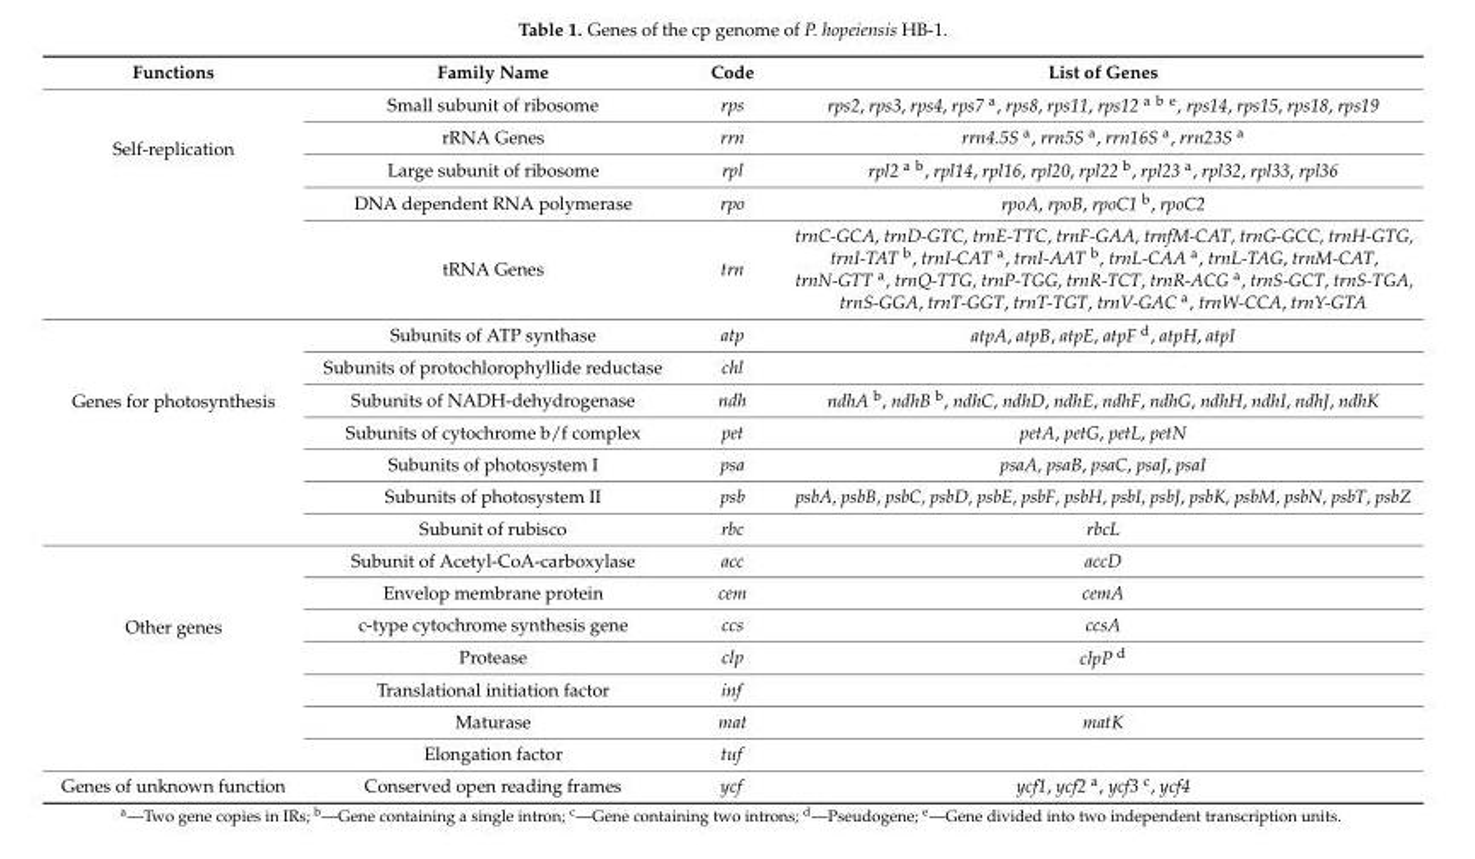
<table><thead><tr><td>Functions</td><td>Family Name</td><td>Code</td><td>List of Genes</td></tr></thead><tbody><tr><td rowspan="5">Self-replication</td><td>Small subunit of ribosome</td><td>rps</td><td>rps2, rps3, rps4, rps7 <sup>a</sup>, rps8, rps11, rps12 <sup>a b e</sup>, rps14, rps15, rps18, rps19</td></tr><tr><td>rRNA Genes</td><td>rrn</td><td>rrn4.5S <sup>a</sup>, rrn5S <sup>a</sup>, rrn16S <sup>a</sup>, rrn23S <sup>a</sup></td></tr><tr><td>Large subunit of ribosome</td><td>rpl</td><td>rpl2 <sup>a b</sup>, rpl14, rpl16, rpl20, rpl22 <sup>b</sup>, rpl23 <sup>a</sup>, rpl32, rpl33, rpl36</td></tr><tr><td>DNA dependent RNA polymerase</td><td>rpo</td><td>rpoA, rpoB, rpoC1 <sup>b</sup>, rpoC2</td></tr><tr><td>tRNA Genes</td><td>trn</td><td>trnC-GCA, trnD-GTC, trnE-TTC, trnF-GAA, trnfM-CAT, trnG-GCC, trnH-GTG, trnI-TAT b, trnI-CAT a, trnI-AAT b, trnL-CAA a, trnL-TAG, trnM-CAT, trnN-GTT a, trnQ-TTG, trnP-TGG, trnR-TCT, trnR-ACG a, trnS-GCT, trnS-TGA, trnS-GGA, trnT-GGT, trnT-TGT, trnV-GAC a, trnW-CCA, trnY-GTA</td></tr><tr><td rowspan="7">Genes for photosynthesis</td><td>Subunits of ATP synthase</td><td>atp</td><td>atpA, atpB, atpE, atpF <sup>d</sup>, atpH, atpI</td></tr><tr><td>Subunits of protochlorophyllide reductase</td><td>chl</td><td></td></tr><tr><td>Subunits of NADH-dehydrogenase</td><td>ndh</td><td>ndhA <sup>b</sup>, ndhB <sup>b</sup>, ndhC, ndhD, ndhE, ndhF, ndhG, ndhH, ndhI, ndhJ, ndhK</td></tr><tr><td>Subunits of cytochrome b/f complex</td><td>pet</td><td>petA, petG, petL, petN</td></tr><tr><td>Subunits of photosystem I</td><td>psa</td><td>psaA, psaB, psaC, psaJ, psaI</td></tr><tr><td>Subunits of photosystem II</td><td>psb</td><td>psbA, psbB, psbC, psbD, psbE, psbF, psbH, psbI, psbJ, psbK, psbM, psbN, psbT, psbZ</td></tr><tr><td>Subunit of rubisco</td><td>rbc</td><td>rbcL</td></tr><tr><td rowspan="7">Other genes</td><td>Subunit of Acetyl-CoA-carboxylase</td><td>acc</td><td>accD</td></tr><tr><td>Envelop membrane protein</td><td>cem</td><td>cemA</td></tr><tr><td>c-type cytochrome synthesis gene</td><td>ccs</td><td>ccsA</td></tr><tr><td>Protease</td><td>clp</td><td>clpP <sup>d</sup></td></tr><tr><td>Translational initiation factor</td><td>inf</td><td></td></tr><tr><td>Maturase</td><td>mat</td><td>matK</td></tr><tr><td>Elongation factor</td><td>tuf</td><td></td></tr><tr><td>Genes of unknown function</td><td>Conserved open reading frames</td><td>ycf</td><td>ycf1, ycf2 <sup>a</sup>, ycf3 <sup>c</sup>, ycf4</td></tr></tbody></table>